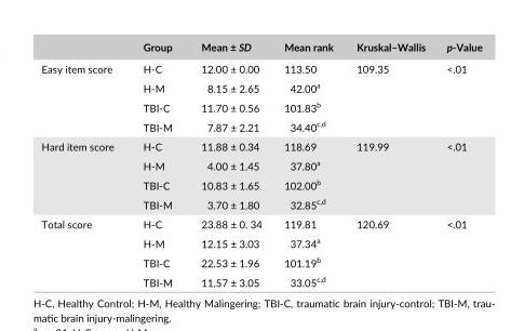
<table><thead><tr><td></td><td>Group</td><td>Mean ± SD</td><td>Mean rank</td><td>Kruskal–Wallis</td><td>p- Value</td></tr></thead><tbody><tr><td rowspan="4">Easy item score</td><td>H- C</td><td>12.00 ± 0.00</td><td>113.50</td><td rowspan="4">109.35</td><td rowspan="4">&lt;.01</td></tr><tr><td>H- M</td><td>8.15 ± 2.65</td><td>42.00<sup>a</sup></td></tr><tr><td>TBI- C</td><td>11.70 ± 0.56</td><td>101.83<sup>b</sup></td></tr><tr><td>TBI- M</td><td>7.87 ± 2.21</td><td>34.40<sup>c,</sup>d</td></tr><tr><td rowspan="4">Hard item score</td><td>H- C</td><td>11.88 ± 0.34</td><td>118.69</td><td rowspan="4">119.99</td><td rowspan="4">&lt;.01</td></tr><tr><td>H- M</td><td>4.00 ± 1.45</td><td>37.80<sup>a</sup></td></tr><tr><td>TBI- C</td><td>10.83 ± 1.65</td><td>102.00<sup>b</sup></td></tr><tr><td>TBI- M</td><td>3.70 ± 1.80</td><td>32.85<sup>c,</sup>d</td></tr><tr><td rowspan="4">Total score</td><td>H- C</td><td>23.88 ± 0. 34</td><td>119.81</td><td rowspan="4">120.69</td><td rowspan="4">&lt;.01</td></tr><tr><td>H- M</td><td>12.15 ± 3.03</td><td>37.34<sup>a</sup></td></tr><tr><td>TBI- C</td><td>22.53 ± 1.96</td><td>101.19<sup>b</sup></td></tr><tr><td>TBI- M</td><td>11.57 ± 3.05</td><td>33.05<sup>c,</sup>d</td></tr></tbody></table>